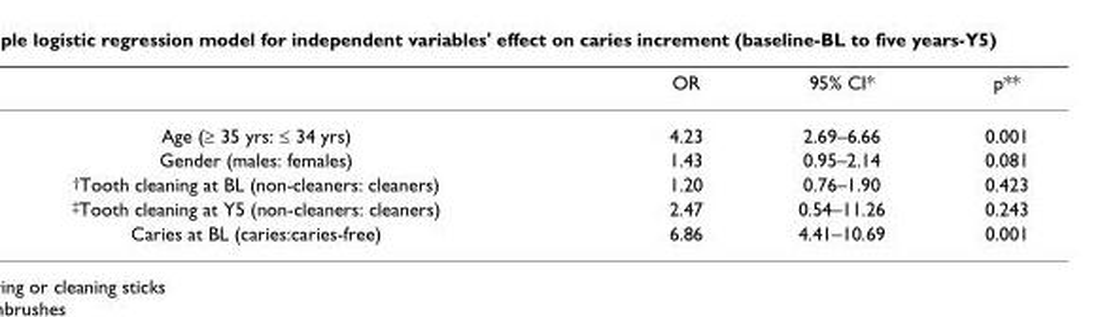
<table><thead><tr><td></td><td>OR</td><td>95% CI*</td><td>p**</td></tr></thead><tbody><tr><td>Age (≥ 35 yrs: ≤ 34 yrs)</td><td>4.23</td><td>2.69–6.66</td><td>0.001</td></tr><tr><td>Gender (males: females)</td><td>1.43</td><td>0.95–2.14</td><td>0.081</td></tr><tr><td><sup>†</sup>Tooth cleaning at BL (non-cleaners: cleaners)</td><td>1.20</td><td>0.76–1.90</td><td>0.423</td></tr><tr><td><sup>‡</sup>Tooth cleaning at Y5 (non-cleaners: cleaners)</td><td>2.47</td><td>0.54–11.26</td><td>0.243</td></tr><tr><td>Caries at BL (caries:caries-free)</td><td>6.86</td><td>4.41–10.69</td><td>0.001</td></tr></tbody></table>